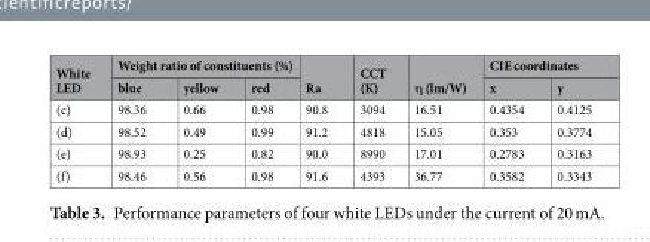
<table><thead><tr><td rowspan="2">White LED</td><td colspan="3">Weight ratio of constituents (%)</td><td rowspan="2">Ra</td><td rowspan="2">CCT (K)</td><td rowspan="2">η (lm/W)</td><td colspan="2">CIE coordinates</td></tr><tr><td>blue</td><td>yellow</td><td>red</td><td>x</td><td>y</td></tr></thead><tbody><tr><td>(c)</td><td>98.36</td><td>0.66</td><td>0.98</td><td>90.8</td><td>3094</td><td>16.51</td><td>0.4354</td><td>0.4125</td></tr><tr><td>(d)</td><td>98.52</td><td>0.49</td><td>0.99</td><td>91.2</td><td>4818</td><td>15.05</td><td>0.353</td><td>0.3774</td></tr><tr><td>(e)</td><td>98.93</td><td>0.25</td><td>0.82</td><td>90.0</td><td>8990</td><td>17.01</td><td>0.2783</td><td>0.3163</td></tr><tr><td>(f)</td><td>98.46</td><td>0.56</td><td>0.98</td><td>91.6</td><td>4393</td><td>36.77</td><td>0.3582</td><td>0.3343</td></tr></tbody></table>